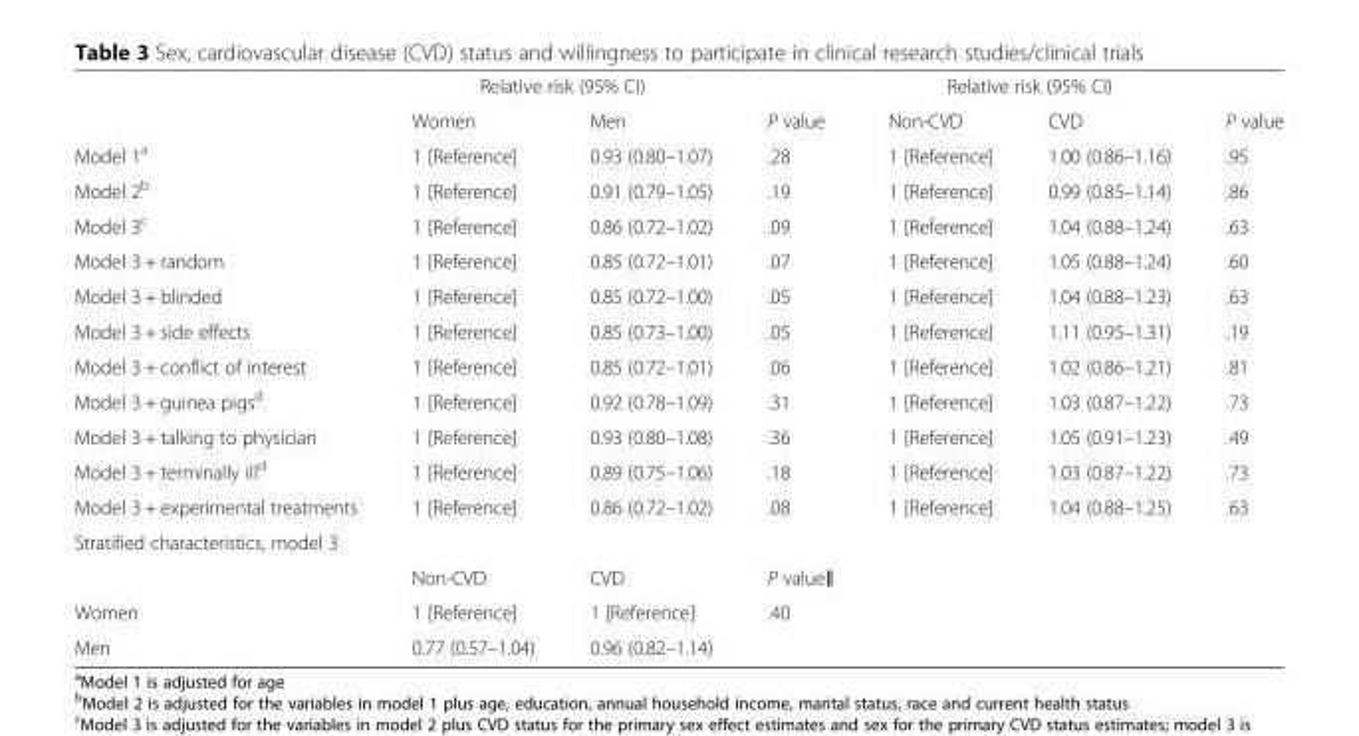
<table><thead><tr><td rowspan="2"></td><td colspan="2">Relative risk (95% CI)</td><td rowspan="2">P value</td><td colspan="2">Relative risk (95% CI)</td><td rowspan="2">P value</td></tr><tr><td>Women</td><td>Men</td><td>Non-CVD</td><td>CVD</td></tr></thead><tbody><tr><td>Model 1<sup>a</sup></td><td>1 [Reference]</td><td>0.93 (0.80–1.07)</td><td>.28</td><td>1 [Reference]</td><td>1.00 (0.86–1.16)</td><td>.95</td></tr><tr><td>Model 2<sup>b</sup></td><td>1 [Reference]</td><td>0.91 (0.79–1.05)</td><td>.19</td><td>1 [Reference]</td><td>0.99 (0.85–1.14)</td><td>.86</td></tr><tr><td>Model 3<sup>c</sup></td><td>1 [Reference]</td><td>0.86 (0.72–1.02)</td><td>.09</td><td>1 [Reference]</td><td>1.04 (0.88–1.24)</td><td>.63</td></tr><tr><td>Model 3 + random</td><td>1 [Reference]</td><td>0.85 (0.72–1.01)</td><td>.07</td><td>1 [Reference]</td><td>1.05 (0.88–1.24)</td><td>.60</td></tr><tr><td>Model 3 + blinded</td><td>1 [Reference]</td><td>0.85 (0.72–1.00)</td><td>.05</td><td>1 [Reference]</td><td>1.04 (0.88–1.23)</td><td>.63</td></tr><tr><td>Model 3 + side effects</td><td>1 [Reference]</td><td>0.85 (0.73–1.00)</td><td>.05</td><td>1 [Reference]</td><td>1.11 (0.95–1.31)</td><td>.19</td></tr><tr><td>Model 3 + conflict of interest</td><td>1 [Reference]</td><td>0.85 (0.72–1.01)</td><td>.06</td><td>1 [Reference]</td><td>1.02 (0.86–1.21)</td><td>.81</td></tr><tr><td>Model 3 + guinea pigs<sup>d</sup></td><td>1 [Reference]</td><td>0.92 (0.78–1.09)</td><td>.31</td><td>1 [Reference]</td><td>1.03 (0.87–1.22)</td><td>.73</td></tr><tr><td>Model 3 + talking to physician</td><td>1 [Reference]</td><td>0.93 (0.80–1.08)</td><td>.36</td><td>1 [Reference]</td><td>1.05 (0.91–1.23)</td><td>.49</td></tr><tr><td>Model 3 + terminally ill<sup>d</sup></td><td>1 [Reference]</td><td>0.89 (0.75–1.06)</td><td>.18</td><td>1 [Reference]</td><td>1.03 (0.87–1.22)</td><td>.73</td></tr><tr><td>Model 3 + experimental treatments</td><td>1 [Reference]</td><td>0.86 (0.72–1.02)</td><td>.08</td><td>1 [Reference]</td><td>1.04 (0.88–1.25)</td><td>.63</td></tr><tr><td colspan="7">Stratified characteristics, model 3</td></tr><tr><td></td><td>Non-CVD</td><td>CVD</td><td>P value‖</td><td></td><td></td><td></td></tr><tr><td>Women</td><td>1 [Reference]</td><td>1 [Reference]</td><td>.40</td><td></td><td></td><td></td></tr><tr><td>Men</td><td>0.77 (0.57–1.04)</td><td>0.96 (0.82–1.14)</td><td></td><td></td><td></td><td></td></tr></tbody></table>